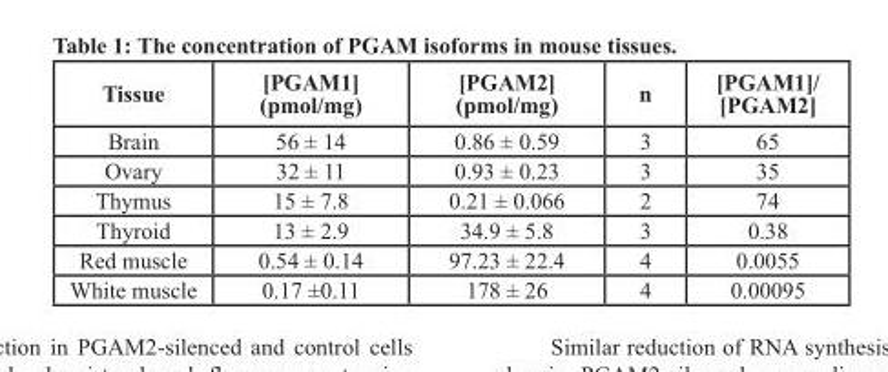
<table><thead><tr><td>Tissue</td><td>[PGAM1] (pmol/mg)</td><td>[PGAM2] (pmol/mg)</td><td>n</td><td>[PGAM1]/ [PGAM2]</td></tr></thead><tbody><tr><td>Brain</td><td>56 ± 14</td><td>0.86 ± 0.59</td><td>3</td><td>65</td></tr><tr><td>Ovary</td><td>32 ± 11</td><td>0.93 ± 0.23</td><td>3</td><td>35</td></tr><tr><td>Thymus</td><td>15 ± 7.8</td><td>0.21 ± 0.066</td><td>2</td><td>74</td></tr><tr><td>Thyroid</td><td>13 ± 2.9</td><td>34.9 ± 5.8</td><td>3</td><td>0.38</td></tr><tr><td>Red muscle</td><td>0.54 ± 0.14</td><td>97.23 ± 22.4</td><td>4</td><td>0.0055</td></tr><tr><td>White muscle</td><td>0.17 ±0.11</td><td>178 ± 26</td><td>4</td><td>0.00095</td></tr></tbody></table>